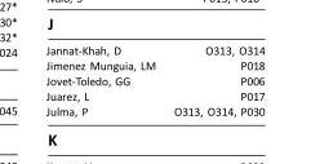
<table><tbody><tr><td>Jannat-Khah, D</td><td>O313, O314</td></tr><tr><td>Jimenez Munguia, LM</td><td>P018</td></tr><tr><td>Jovet-Toledo, GG</td><td>P006</td></tr><tr><td>Juarez, L</td><td>P017</td></tr><tr><td>Julma, P</td><td>O313, O314, P030</td></tr></tbody></table>